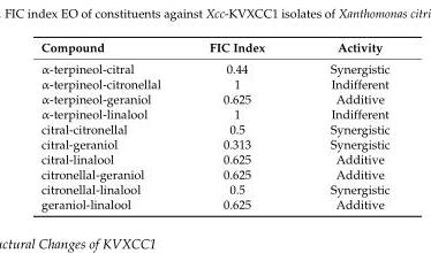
<table><thead><tr><td>Compound</td><td>FIC Index</td><td>Activity</td></tr></thead><tbody><tr><td>α-terpineol-citral</td><td>0.44</td><td>Synergistic</td></tr><tr><td>α-terpineol-citronellal</td><td>1</td><td>Indifferent</td></tr><tr><td>α-terpineol-geraniol</td><td>0.625</td><td>Additive</td></tr><tr><td>α-terpineol-linalool</td><td>1</td><td>Indifferent</td></tr><tr><td>citral-citronellal</td><td>0.5</td><td>Synergistic</td></tr><tr><td>citral-geraniol</td><td>0.313</td><td>Synergistic</td></tr><tr><td>citral-linalool</td><td>0.625</td><td>Additive</td></tr><tr><td>citronellal-geraniol</td><td>0.625</td><td>Additive</td></tr><tr><td>citronellal-linalool</td><td>0.5</td><td>Synergistic</td></tr><tr><td>geraniol-linalool</td><td>0.625</td><td>Additive</td></tr></tbody></table>